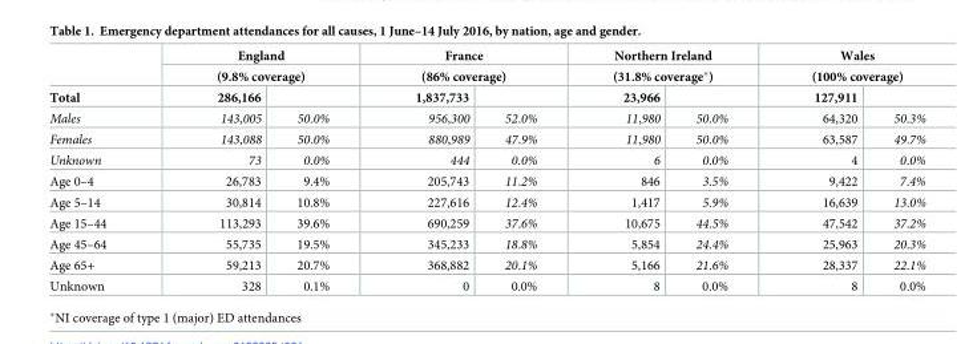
<table><thead><tr><td rowspan="3">Total</td><td rowspan="2" colspan="2">England (9.8% coverage)</td><td rowspan="2" colspan="2">France (86% coverage)</td><td rowspan="2" colspan="2">Northern Ireland (31.8% coverage*)</td><td rowspan="2" colspan="2">Wales (100% coverage)</td></tr><tr></tr><tr><td>286,166</td><td></td><td>1,837,733</td><td></td><td>23,966</td><td></td><td>127,911</td><td></td></tr></thead><tbody><tr><td>Males</td><td>143,005</td><td>50.0%</td><td>956,300</td><td>52.0%</td><td>11,980</td><td>50.0%</td><td>64,320</td><td>50.3%</td></tr><tr><td>Females</td><td>143,088</td><td>50.0%</td><td>880,989</td><td>47.9%</td><td>11,980</td><td>50.0%</td><td>63,587</td><td>49.7%</td></tr><tr><td>Unknown</td><td>73</td><td>0.0%</td><td>444</td><td>0.0%</td><td>6</td><td>0.0%</td><td>4</td><td>0.0%</td></tr><tr><td>Age 0–4</td><td>26,783</td><td>9.4%</td><td>205,743</td><td>11.2%</td><td>846</td><td>3.5%</td><td>9,422</td><td>7.4%</td></tr><tr><td>Age 5–14</td><td>30,814</td><td>10.8%</td><td>227,616</td><td>12.4%</td><td>1,417</td><td>5.9%</td><td>16,639</td><td>13.0%</td></tr><tr><td>Age 15–44</td><td>113,293</td><td>39.6%</td><td>690,259</td><td>37.6%</td><td>10,675</td><td>44.5%</td><td>47,542</td><td>37.2%</td></tr><tr><td>Age 45–64</td><td>55,735</td><td>19.5%</td><td>345,233</td><td>18.8%</td><td>5,854</td><td>24.4%</td><td>25,963</td><td>20.3%</td></tr><tr><td>Age 65+</td><td>59,213</td><td>20.7%</td><td>368,882</td><td>20.1%</td><td>5,166</td><td>21.6%</td><td>28,337</td><td>22.1%</td></tr><tr><td>Unknown</td><td>328</td><td>0.1%</td><td>0</td><td>0.0%</td><td>8</td><td>0.0%</td><td>8</td><td>0.0%</td></tr></tbody></table>